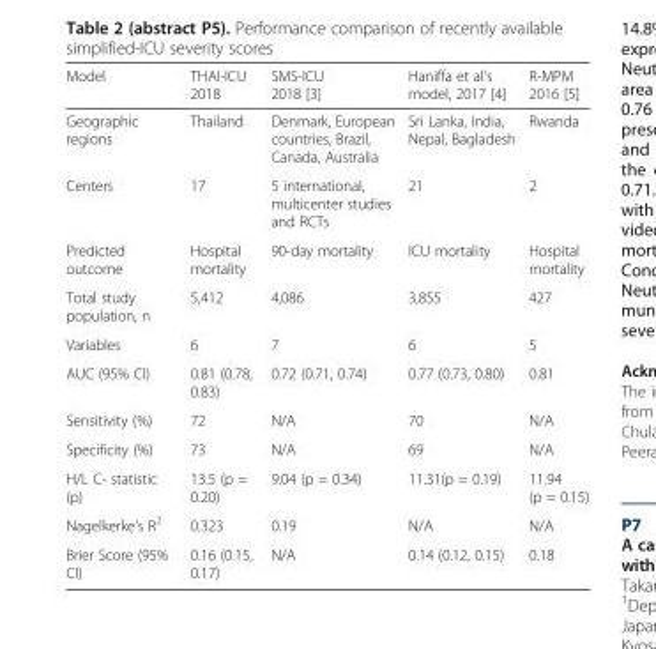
<table><thead><tr><td>Model</td><td>THAI-ICU 2018</td><td>SMS-ICU 2018 [3]</td><td>Haniffa et al’s model, 2017 [4]</td><td>R-MPM 2016 [5]</td></tr></thead><tbody><tr><td>Geographic regions</td><td>Thailand</td><td>Denmark, European countries, Brazil, Canada, Australia</td><td>Sri Lanka, India, Nepal, Bagladesh</td><td>Rwanda</td></tr><tr><td>Centers</td><td>17</td><td>5 international, multicenter studies and RCTs</td><td>21</td><td>2</td></tr><tr><td>Predicted outcome</td><td>Hospital mortality</td><td>90-day mortality</td><td>ICU mortality</td><td>Hospital mortality</td></tr><tr><td>Total study population, n</td><td>5,412</td><td>4,086</td><td>3,855</td><td>427</td></tr><tr><td>Variables</td><td>6</td><td>7</td><td>6</td><td>5</td></tr><tr><td>AUC (95% CI)</td><td>0.81 (0.78, 0.83)</td><td>0.72 (0.71, 0.74)</td><td>0.77 (0.73, 0.80)</td><td>0.81</td></tr><tr><td>Sensitivity (%)</td><td>72</td><td>N/A</td><td>70</td><td>N/A</td></tr><tr><td>Specificity (%)</td><td>73</td><td>N/A</td><td>69</td><td>N/A</td></tr><tr><td>H/L C- statistic (p)</td><td>13.5 (p = 0.20)</td><td>9.04 (p = 0.34)</td><td>11.31(p = 0.19)</td><td>11.94 (p = 0.15)</td></tr><tr><td>Nagelkerke’s R<sup>2</sup></td><td>0.323</td><td>0.19</td><td>N/A</td><td>N/A</td></tr><tr><td>Brier Score (95% CI)</td><td>0.16 (0.15, 0.17)</td><td>N/A</td><td>0.14 (0.12, 0.15)</td><td>0.18</td></tr></tbody></table>